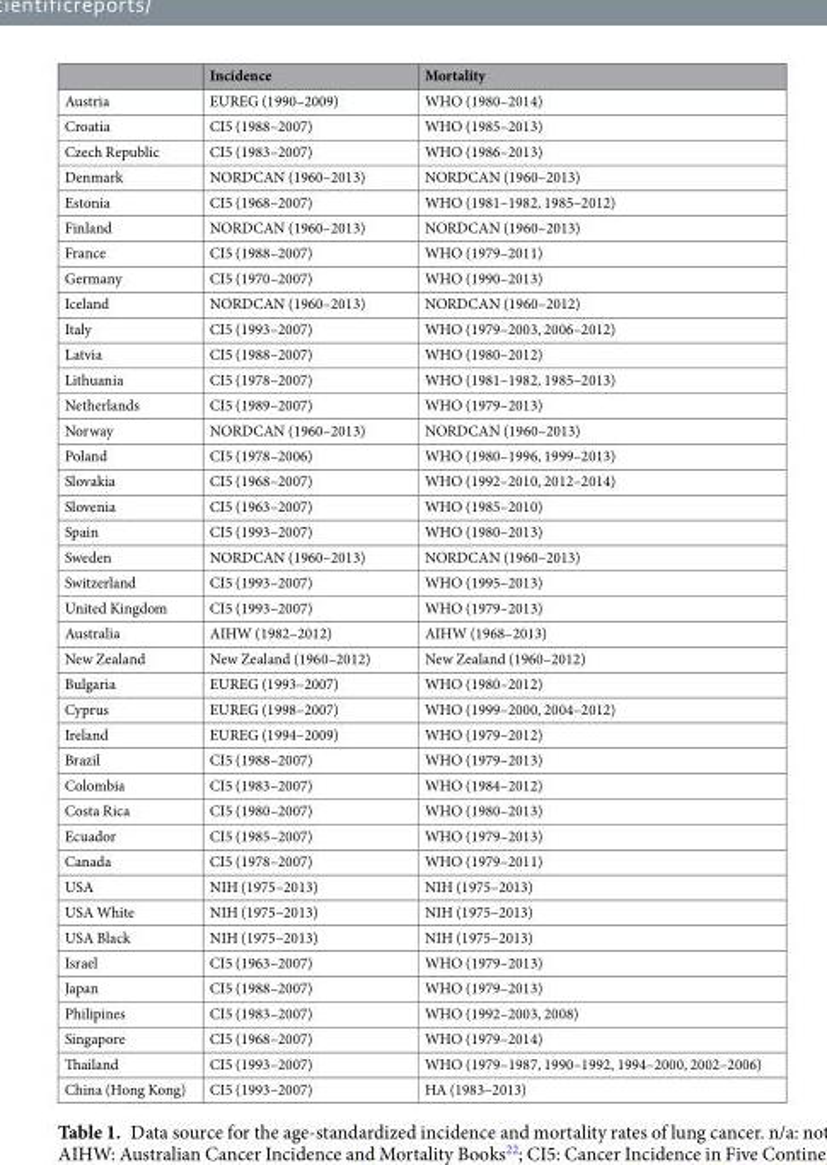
<table><thead><tr><td></td><td>Incidence</td><td>Mortality</td></tr></thead><tbody><tr><td>Austria</td><td>EUREG (1990–2009)</td><td>WHO (1980–2014)</td></tr><tr><td>Croatia</td><td>CI5 (1988–2007)</td><td>WHO (1985–2013)</td></tr><tr><td>Czech Republic</td><td>CI5 (1983–2007)</td><td>WHO (1986–2013)</td></tr><tr><td>Denmark</td><td>NORDCAN (1960–2013)</td><td>NORDCAN (1960–2013)</td></tr><tr><td>Estonia</td><td>CI5 (1968–2007)</td><td>WHO (1981–1982, 1985–2012)</td></tr><tr><td>Finland</td><td>NORDCAN (1960–2013)</td><td>NORDCAN (1960–2013)</td></tr><tr><td>France</td><td>CI5 (1988–2007)</td><td>WHO (1979–2011)</td></tr><tr><td>Germany</td><td>CI5 (1970–2007)</td><td>WHO (1990–2013)</td></tr><tr><td>Iceland</td><td>NORDCAN (1960–2013)</td><td>NORDCAN (1960–2012)</td></tr><tr><td>Italy</td><td>CI5 (1993–2007)</td><td>WHO (1979–2003, 2006–2012)</td></tr><tr><td>Latvia</td><td>CI5 (1988–2007)</td><td>WHO (1980–2012)</td></tr><tr><td>Lithuania</td><td>CI5 (1978–2007)</td><td>WHO (1981–1982, 1985–2013)</td></tr><tr><td>Netherlands</td><td>CI5 (1989–2007)</td><td>WHO (1979–2013)</td></tr><tr><td>Norway</td><td>NORDCAN (1960–2013)</td><td>NORDCAN (1960–2013)</td></tr><tr><td>Poland</td><td>CI5 (1978–2006)</td><td>WHO (1980–1996, 1999–2013)</td></tr><tr><td>Slovakia</td><td>CI5 (1968–2007)</td><td>WHO (1992–2010, 2012–2014)</td></tr><tr><td>Slovenia</td><td>CI5 (1963–2007)</td><td>WHO (1985–2010)</td></tr><tr><td>Spain</td><td>CI5 (1993–2007)</td><td>WHO (1980–2013)</td></tr><tr><td>Sweden</td><td>NORDCAN (1960–2013)</td><td>NORDCAN (1960–2013)</td></tr><tr><td>Switzerland</td><td>CI5 (1993–2007)</td><td>WHO (1995–2013)</td></tr><tr><td>United Kingdom</td><td>CI5 (1993–2007)</td><td>WHO (1979–2013)</td></tr><tr><td>Australia</td><td>AIHW (1982–2012)</td><td>AIHW (1968–2013)</td></tr><tr><td>New Zealand</td><td>New Zealand (1960–2012)</td><td>New Zealand (1960–2012)</td></tr><tr><td>Bulgaria</td><td>EUREG (1993–2007)</td><td>WHO (1980–2012)</td></tr><tr><td>Cyprus</td><td>EUREG (1998–2007)</td><td>WHO (1999–2000, 2004–2012)</td></tr><tr><td>Ireland</td><td>EUREG (1994–2009)</td><td>WHO (1979–2012)</td></tr><tr><td>Brazil</td><td>CI5 (1988–2007)</td><td>WHO (1979–2013)</td></tr><tr><td>Colombia</td><td>CI5 (1983–2007)</td><td>WHO (1984–2012)</td></tr><tr><td>Costa Rica</td><td>CI5 (1980–2007)</td><td>WHO (1980–2013)</td></tr><tr><td>Ecuador</td><td>CI5 (1985–2007)</td><td>WHO (1979–2013)</td></tr><tr><td>Canada</td><td>CI5 (1978–2007)</td><td>WHO (1979–2011)</td></tr><tr><td>USA</td><td>NIH (1975–2013)</td><td>NIH (1975–2013)</td></tr><tr><td>USA White</td><td>NIH (1975–2013)</td><td>NIH (1975–2013)</td></tr><tr><td>USA Black</td><td>NIH (1975–2013)</td><td>NIH (1975–2013)</td></tr><tr><td>Israel</td><td>CI5 (1963–2007)</td><td>WHO (1979–2013)</td></tr><tr><td>Japan</td><td>CI5 (1988–2007)</td><td>WHO (1979–2013)</td></tr><tr><td>Philipines</td><td>CI5 (1983–2007)</td><td>WHO (1992–2003, 2008)</td></tr><tr><td>Singapore</td><td>CI5 (1968–2007)</td><td>WHO (1979–2014)</td></tr><tr><td>Thailand</td><td>CI5 (1993–2007)</td><td>WHO (1979–1987, 1990–1992, 1994–2000, 2002–2006)</td></tr><tr><td>China (Hong Kong)</td><td>CI5 (1993–2007)</td><td>HA (1983–2013)</td></tr></tbody></table>